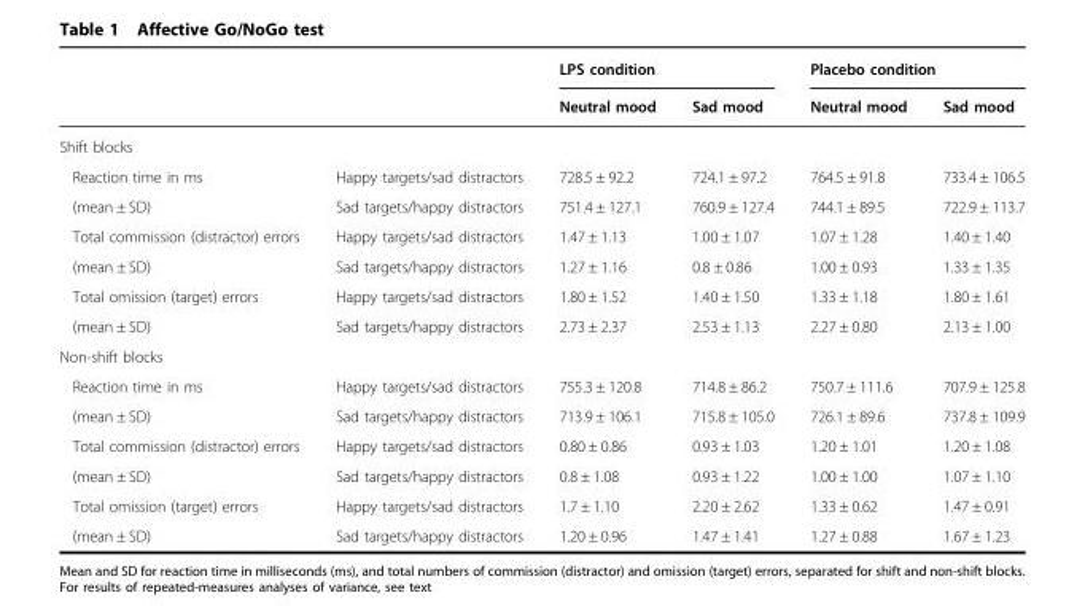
<table><thead><tr><td rowspan="2"></td><td rowspan="2"></td><td colspan="2">LPS condition</td><td colspan="2">Placebo condition</td></tr><tr><td>Neutral mood</td><td>Sad mood</td><td>Neutral mood</td><td>Sad mood</td></tr></thead><tbody><tr><td colspan="6">Shift blocks</td></tr><tr><td>Reaction time in ms</td><td>Happy targets/sad distractors</td><td>728.5 ± 92.2</td><td>724.1 ± 97.2</td><td>764.5 ± 91.8</td><td>733.4 ± 106.5</td></tr><tr><td>(mean ± SD)</td><td>Sad targets/happy distractors</td><td>751.4 ± 127.1</td><td>760.9 ± 127.4</td><td>744.1 ± 89.5</td><td>722.9 ± 113.7</td></tr><tr><td>Total commission (distractor) errors</td><td>Happy targets/sad distractors</td><td>1.47 ± 1.13</td><td>1.00 ± 1.07</td><td>1.07 ± 1.28</td><td>1.40 ± 1.40</td></tr><tr><td>(mean ± SD)</td><td>Sad targets/happy distractors</td><td>1.27 ± 1.16</td><td>0.8 ± 0.86</td><td>1.00 ± 0.93</td><td>1.33 ± 1.35</td></tr><tr><td>Total omission (target) errors</td><td>Happy targets/sad distractors</td><td>1.80 ± 1.52</td><td>1.40 ± 1.50</td><td>1.33 ± 1.18</td><td>1.80 ± 1.61</td></tr><tr><td>(mean ± SD)</td><td>Sad targets/happy distractors</td><td>2.73 ± 2.37</td><td>2.53 ± 1.13</td><td>2.27 ± 0.80</td><td>2.13 ± 1.00</td></tr><tr><td colspan="6">Non-shift blocks</td></tr><tr><td>Reaction time in ms</td><td>Happy targets/sad distractors</td><td>755.3 ± 120.8</td><td>714.8 ± 86.2</td><td>750.7 ± 111.6</td><td>707.9 ± 125.8</td></tr><tr><td>(mean ± SD)</td><td>Sad targets/happy distractors</td><td>713.9 ± 106.1</td><td>715.8 ± 105.0</td><td>726.1 ± 89.6</td><td>737.8 ± 109.9</td></tr><tr><td>Total commission (distractor) errors</td><td>Happy targets/sad distractors</td><td>0.80 ± 0.86</td><td>0.93 ± 1.03</td><td>1.20 ± 1.01</td><td>1.20 ± 1.08</td></tr><tr><td>(mean ± SD)</td><td>Sad targets/happy distractors</td><td>0.8 ± 1.08</td><td>0.93 ± 1.22</td><td>1.00 ± 1.00</td><td>1.07 ± 1.10</td></tr><tr><td>Total omission (target) errors</td><td>Happy targets/sad distractors</td><td>1.7 ± 1.10</td><td>2.20 ± 2.62</td><td>1.33 ± 0.62</td><td>1.47 ± 0.91</td></tr><tr><td>(mean ± SD)</td><td>Sad targets/happy distractors</td><td>1.20 ± 0.96</td><td>1.47 ± 1.41</td><td>1.27 ± 0.88</td><td>1.67 ± 1.23</td></tr></tbody></table>